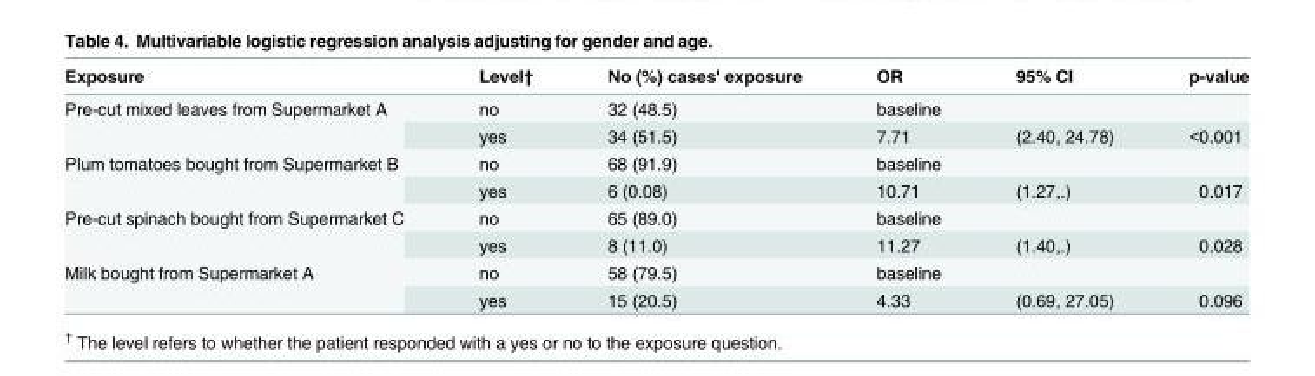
<table><thead><tr><td>Exposure</td><td>Level†</td><td>No (%) cases&#x27; exposure</td><td>OR</td><td>95% CI</td><td>p-value</td></tr></thead><tbody><tr><td rowspan="2">Pre-cut mixed leaves from Supermarket A</td><td>no</td><td>32 (48.5)</td><td>baseline</td><td></td><td></td></tr><tr><td>yes</td><td>34 (51.5)</td><td>7.71</td><td>(2.40, 24.78)</td><td>&lt;0.001</td></tr><tr><td rowspan="2">Plum tomatoes bought from Supermarket B</td><td>no</td><td>68 (91.9)</td><td>baseline</td><td></td><td></td></tr><tr><td>yes</td><td>6 (0.08)</td><td>10.71</td><td>(1.27,.)</td><td>0.017</td></tr><tr><td rowspan="2">Pre-cut spinach bought from Supermarket C</td><td>no</td><td>65 (89.0)</td><td>baseline</td><td></td><td></td></tr><tr><td>yes</td><td>8 (11.0)</td><td>11.27</td><td>(1.40,.)</td><td>0.028</td></tr><tr><td rowspan="2">Milk bought from Supermarket A</td><td>no</td><td>58 (79.5)</td><td>baseline</td><td></td><td></td></tr><tr><td>yes</td><td>15 (20.5)</td><td>4.33</td><td>(0.69, 27.05)</td><td>0.096</td></tr></tbody></table>